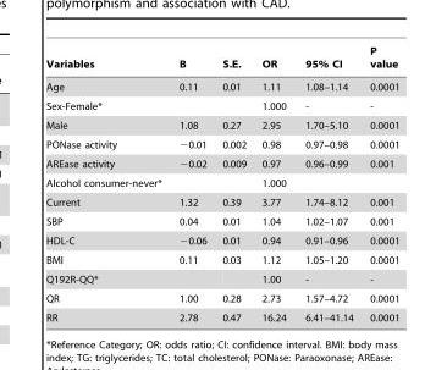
<table><thead><tr><td>Variables</td><td>B</td><td>S.E.</td><td>OR</td><td>95% CI</td><td>P value</td></tr></thead><tbody><tr><td>Age</td><td>0.11</td><td>0.01</td><td>1.11</td><td>1.08–1.14</td><td>0.0001</td></tr><tr><td>Sex-Female*</td><td></td><td></td><td>1.000</td><td>-</td><td>-</td></tr><tr><td>Male</td><td>1.08</td><td>0.27</td><td>2.95</td><td>1.70–5.10</td><td>0.0001</td></tr><tr><td>PONase activity</td><td>−0.01</td><td>0.002</td><td>0.98</td><td>0.97–0.98</td><td>0.0001</td></tr><tr><td>AREase activity</td><td>−0.02</td><td>0.009</td><td>0.97</td><td>0.96–0.99</td><td>0.001</td></tr><tr><td>Alcohol consumer-never*</td><td></td><td></td><td>1.000</td><td></td><td></td></tr><tr><td>Current</td><td>1.32</td><td>0.39</td><td>3.77</td><td>1.74–8.12</td><td>0.001</td></tr><tr><td>SBP</td><td>0.04</td><td>0.01</td><td>1.04</td><td>1.02–1.07</td><td>0.001</td></tr><tr><td>HDL-C</td><td>−0.06</td><td>0.01</td><td>0.94</td><td>0.91–0.96</td><td>0.0001</td></tr><tr><td>BMI</td><td>0.11</td><td>0.03</td><td>1.12</td><td>1.05–1.20</td><td>0.0001</td></tr><tr><td>Q192R-QQ*</td><td></td><td></td><td>1.00</td><td>-</td><td>-</td></tr><tr><td>QR</td><td>1.00</td><td>0.28</td><td>2.73</td><td>1.57–4.72</td><td>0.0001</td></tr><tr><td>RR</td><td>2.78</td><td>0.47</td><td>16.24</td><td>6.41–41.14</td><td>0.0001</td></tr></tbody></table>